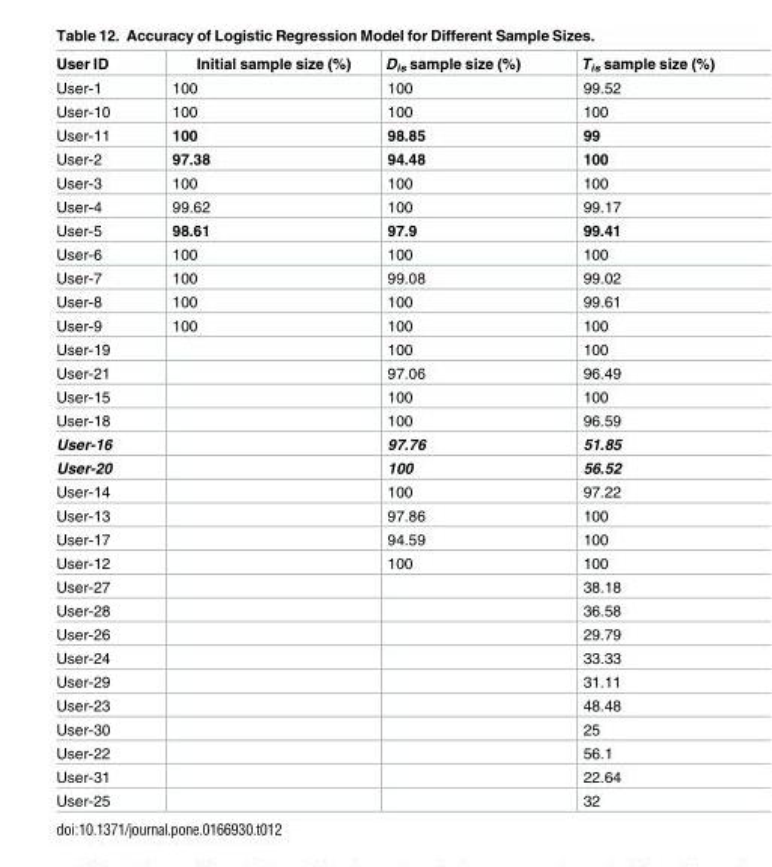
<table><thead><tr><td>User ID</td><td>Initial sample size (%)</td><td>D<sub>is</sub> sample size (%)</td><td>T<sub>is</sub> sample size (%)</td></tr></thead><tbody><tr><td>User-1</td><td>100</td><td>100</td><td>99.52</td></tr><tr><td>User-10</td><td>100</td><td>100</td><td>100</td></tr><tr><td>User-11</td><td>100</td><td>98.85</td><td>99</td></tr><tr><td>User-2</td><td>97.38</td><td>94.48</td><td>100</td></tr><tr><td>User-3</td><td>100</td><td>100</td><td>100</td></tr><tr><td>User-4</td><td>99.62</td><td>100</td><td>99.17</td></tr><tr><td>User-5</td><td>98.61</td><td>97.9</td><td>99.41</td></tr><tr><td>User-6</td><td>100</td><td>100</td><td>100</td></tr><tr><td>User-7</td><td>100</td><td>99.08</td><td>99.02</td></tr><tr><td>User-8</td><td>100</td><td>100</td><td>99.61</td></tr><tr><td>User-9</td><td>100</td><td>100</td><td>100</td></tr><tr><td>User-19</td><td></td><td>100</td><td>100</td></tr><tr><td>User-21</td><td></td><td>97.06</td><td>96.49</td></tr><tr><td>User-15</td><td></td><td>100</td><td>100</td></tr><tr><td>User-18</td><td></td><td>100</td><td>96.59</td></tr><tr><td>User-16</td><td></td><td>97.76</td><td>51.85</td></tr><tr><td>User-20</td><td></td><td>100</td><td>56.52</td></tr><tr><td>User-14</td><td></td><td>100</td><td>97.22</td></tr><tr><td>User-13</td><td></td><td>97.86</td><td>100</td></tr><tr><td>User-17</td><td></td><td>94.59</td><td>100</td></tr><tr><td>User-12</td><td></td><td>100</td><td>100</td></tr><tr><td>User-27</td><td></td><td></td><td>38.18</td></tr><tr><td>User-28</td><td></td><td></td><td>36.58</td></tr><tr><td>User-26</td><td></td><td></td><td>29.79</td></tr><tr><td>User-24</td><td></td><td></td><td>33.33</td></tr><tr><td>User-29</td><td></td><td></td><td>31.11</td></tr><tr><td>User-23</td><td></td><td></td><td>48.48</td></tr><tr><td>User-30</td><td></td><td></td><td>25</td></tr><tr><td>User-22</td><td></td><td></td><td>56.1</td></tr><tr><td>User-31</td><td></td><td></td><td>22.64</td></tr><tr><td>User-25</td><td></td><td></td><td>32</td></tr></tbody></table>